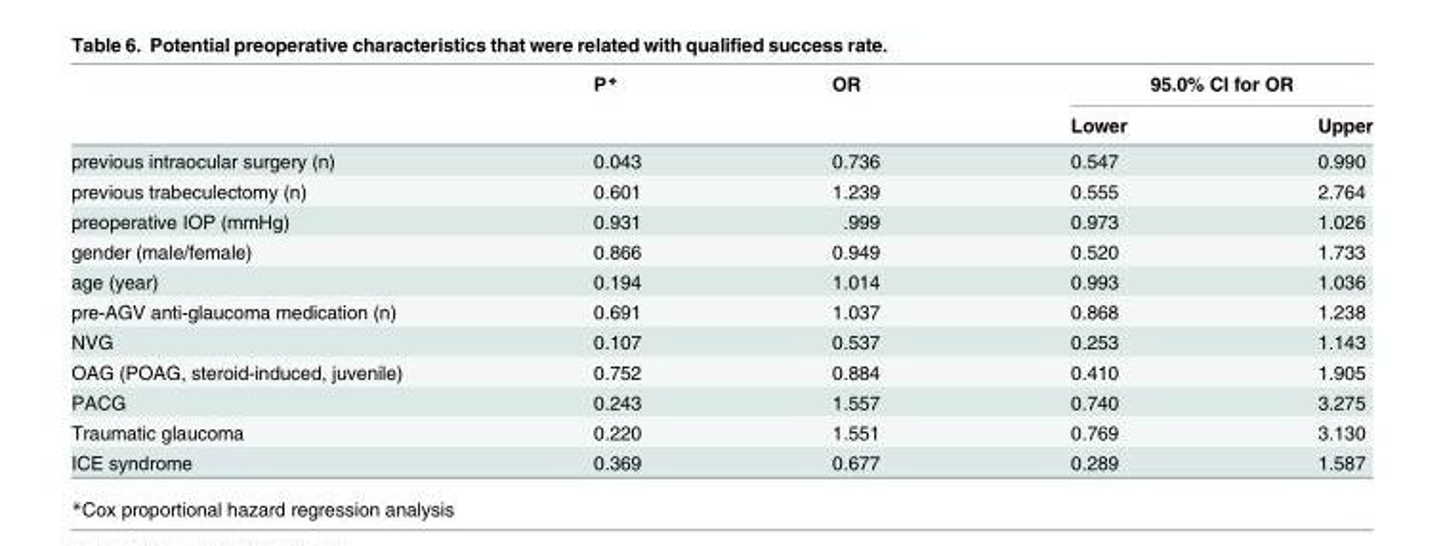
<table><thead><tr><td rowspan="2"></td><td rowspan="2">P*</td><td rowspan="2">OR</td><td colspan="2">95.0% CI for OR</td></tr><tr><td>Lower</td><td>Upper</td></tr></thead><tbody><tr><td>previous intraocular surgery (n)</td><td>0.043</td><td>0.736</td><td>0.547</td><td>0.990</td></tr><tr><td>previous trabeculectomy (n)</td><td>0.601</td><td>1.239</td><td>0.555</td><td>2.764</td></tr><tr><td>preoperative IOP (mmHg)</td><td>0.931</td><td>.999</td><td>0.973</td><td>1.026</td></tr><tr><td>gender (male/female)</td><td>0.866</td><td>0.949</td><td>0.520</td><td>1.733</td></tr><tr><td>age (year)</td><td>0.194</td><td>1.014</td><td>0.993</td><td>1.036</td></tr><tr><td>pre-AGV anti-glaucoma medication (n)</td><td>0.691</td><td>1.037</td><td>0.868</td><td>1.238</td></tr><tr><td>NVG</td><td>0.107</td><td>0.537</td><td>0.253</td><td>1.143</td></tr><tr><td>OAG (POAG, steroid-induced, juvenile)</td><td>0.752</td><td>0.884</td><td>0.410</td><td>1.905</td></tr><tr><td>PACG</td><td>0.243</td><td>1.557</td><td>0.740</td><td>3.275</td></tr><tr><td>Traumatic glaucoma</td><td>0.220</td><td>1.551</td><td>0.769</td><td>3.130</td></tr><tr><td>ICE syndrome</td><td>0.369</td><td>0.677</td><td>0.289</td><td>1.587</td></tr></tbody></table>